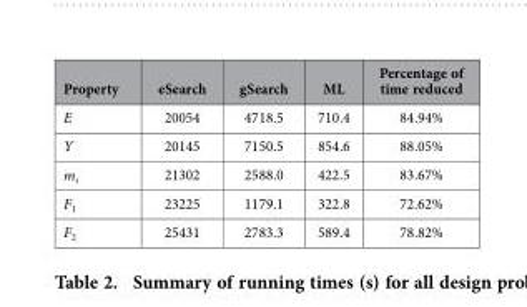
<table><thead><tr><td>Property</td><td>eSearch</td><td>gSearch</td><td>ML</td><td>Percentage of time reduced</td></tr></thead><tbody><tr><td>E</td><td>20054</td><td>4718.5</td><td>710.4</td><td>84.94%</td></tr><tr><td>Y</td><td>20145</td><td>7150.5</td><td>854.6</td><td>88.05%</td></tr><tr><td>m<sub>s</sub></td><td>21302</td><td>2588.0</td><td>422.5</td><td>83.67%</td></tr><tr><td>F<sub>1</sub></td><td>23225</td><td>1179.1</td><td>322.8</td><td>72.62%</td></tr><tr><td>F<sub>2</sub></td><td>25431</td><td>2783.3</td><td>589.4</td><td>78.82%</td></tr></tbody></table>